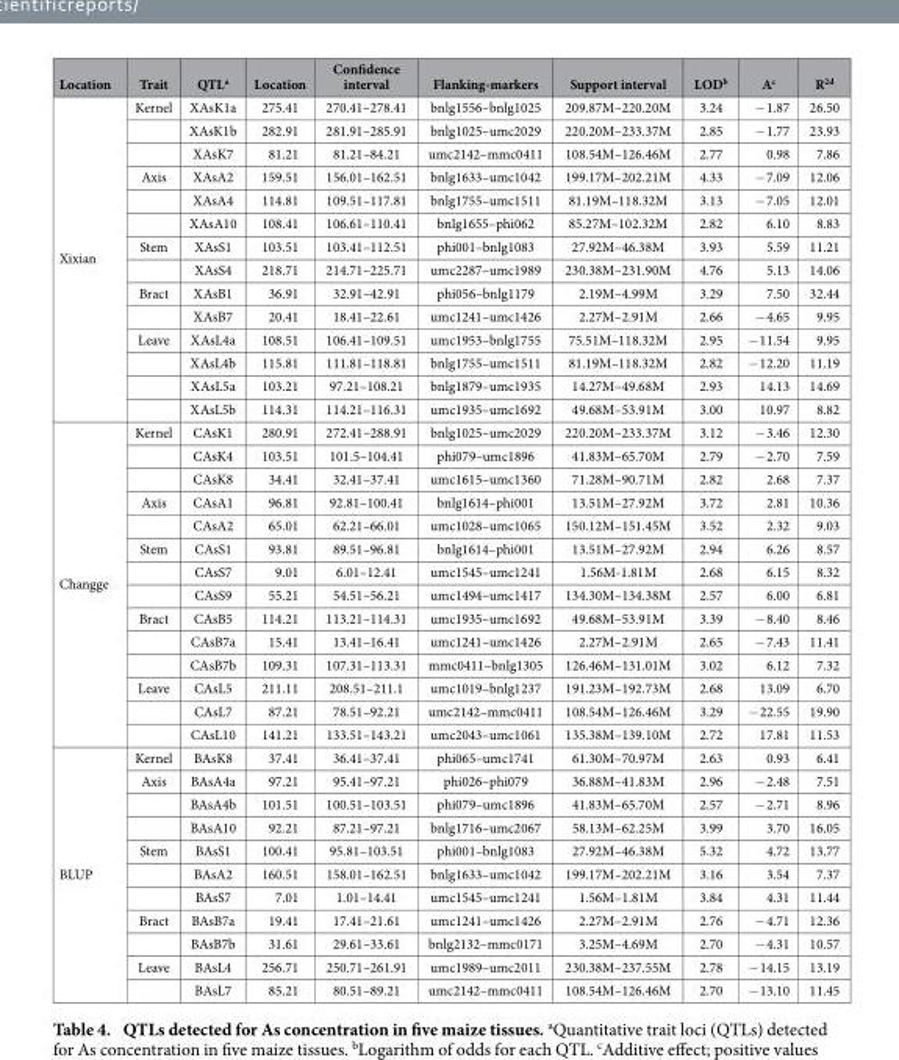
<table><thead><tr><td>Location</td><td>Trait</td><td>QTL<sup>a</sup></td><td>Location</td><td>Confidence interval</td><td>Flanking-markers</td><td>Support interval</td><td>LOD<sup>b</sup></td><td>A<sup>c</sup></td><td>R<sup>2d</sup></td></tr></thead><tbody><tr><td rowspan="14">Xixian</td><td>Kernel</td><td>XAsK1a</td><td>275.41</td><td>270.41–278.41</td><td>bnlg1556–bnlg1025</td><td>209.87M–220.20M</td><td>3.24</td><td>− 1.87</td><td>26.50</td></tr><tr><td></td><td>XAsK1b</td><td>282.91</td><td>281.91–285.91</td><td>bnlg1025–umc2029</td><td>220.20M–233.37M</td><td>2.85</td><td>− 1.77</td><td>23.93</td></tr><tr><td></td><td>XAsK7</td><td>81.21</td><td>81.21–84.21</td><td>umc2142–mmc0411</td><td>108.54M–126.46M</td><td>2.77</td><td>0.98</td><td>7.86</td></tr><tr><td>Axis</td><td>XAsA2</td><td>159.51</td><td>156.01–162.51</td><td>bnlg1633–umc1042</td><td>199.17M–202.21M</td><td>4.33</td><td>− 7.09</td><td>12.06</td></tr><tr><td></td><td>XAsA4</td><td>114.81</td><td>109.51–117.81</td><td>bnlg1755–umc1511</td><td>81.19M–118.32M</td><td>3.13</td><td>− 7.05</td><td>12.01</td></tr><tr><td></td><td>XAsA10</td><td>108.41</td><td>106.61–110.41</td><td>bnlg1655–phi062</td><td>85.27M–102.32M</td><td>2.82</td><td>6.10</td><td>8.83</td></tr><tr><td>Stem</td><td>XAsS1</td><td>103.51</td><td>103.41–112.51</td><td>phi001–bnlg1083</td><td>27.92M–46.38M</td><td>3.93</td><td>5.59</td><td>11.21</td></tr><tr><td></td><td>XAsS4</td><td>218.71</td><td>214.71–225.71</td><td>umc2287–umc1989</td><td>230.38M–231.90M</td><td>4.76</td><td>5.13</td><td>14.06</td></tr><tr><td>Bract</td><td>XAsB1</td><td>36.91</td><td>32.91–42.91</td><td>phi056–bnlg1179</td><td>2.19M–4.99M</td><td>3.29</td><td>7.50</td><td>32.44</td></tr><tr><td></td><td>XAsB7</td><td>20.41</td><td>18.41–22.61</td><td>umc1241–umc1426</td><td>2.27M–2.91M</td><td>2.66</td><td>− 4.65</td><td>9.95</td></tr><tr><td>Leave</td><td>XAsL4a</td><td>108.51</td><td>106.41–109.51</td><td>umc1953–bnlg1755</td><td>75.51M–118.32M</td><td>2.95</td><td>− 11.54</td><td>9.95</td></tr><tr><td></td><td>XAsL4b</td><td>115.81</td><td>111.81–118.81</td><td>bnlg1755–umc1511</td><td>81.19M–118.32M</td><td>2.82</td><td>− 12.20</td><td>11.19</td></tr><tr><td></td><td>XAsL5a</td><td>103.21</td><td>97.21–108.21</td><td>bnlg1879–umc1935</td><td>14.27M–49.68M</td><td>2.93</td><td>14.13</td><td>14.69</td></tr><tr><td></td><td>XAsL5b</td><td>114.31</td><td>114.21–116.31</td><td>umc1935–umc1692</td><td>49.68M–53.91M</td><td>3.00</td><td>10.97</td><td>8.82</td></tr><tr><td rowspan="14">Changge</td><td>Kernel</td><td>CAsK1</td><td>280.91</td><td>272.41–288.91</td><td>bnlg1025–umc2029</td><td>220.20M–233.37M</td><td>3.12</td><td>− 3.46</td><td>12.30</td></tr><tr><td></td><td>CAsK4</td><td>103.51</td><td>101.5–104.41</td><td>phi079–umc1896</td><td>41.83M–65.70M</td><td>2.79</td><td>− 2.70</td><td>7.59</td></tr><tr><td></td><td>CAsK8</td><td>34.41</td><td>32.41–37.41</td><td>umc1615–umc1360</td><td>71.28M–90.71M</td><td>2.82</td><td>2.68</td><td>7.37</td></tr><tr><td>Axis</td><td>CAsA1</td><td>96.81</td><td>92.81–100.41</td><td>bnlg1614–phi001</td><td>13.51M–27.92M</td><td>3.72</td><td>2.81</td><td>10.36</td></tr><tr><td></td><td>CAsA2</td><td>65.01</td><td>62.21–66.01</td><td>umc1028–umc1065</td><td>150.12M–151.45M</td><td>3.52</td><td>2.32</td><td>9.03</td></tr><tr><td>Stem</td><td>CAsS1</td><td>93.81</td><td>89.51–96.81</td><td>bnlg1614–phi001</td><td>13.51M–27.92M</td><td>2.94</td><td>6.26</td><td>8.57</td></tr><tr><td></td><td>CAsS7</td><td>9.01</td><td>6.01–12.41</td><td>umc1545–umc1241</td><td>1.56M-1.81M</td><td>2.68</td><td>6.15</td><td>8.32</td></tr><tr><td></td><td>CAsS9</td><td>55.21</td><td>54.51–56.21</td><td>umc1494–umc1417</td><td>134.30M–134.38M</td><td>2.57</td><td>6.00</td><td>6.81</td></tr><tr><td>Bract</td><td>CAsB5</td><td>114.21</td><td>113.21–114.31</td><td>umc1935–umc1692</td><td>49.68M–53.91M</td><td>3.39</td><td>− 8.40</td><td>8.46</td></tr><tr><td></td><td>CAsB7a</td><td>15.41</td><td>13.41–16.41</td><td>umc1241–umc1426</td><td>2.27M–2.91M</td><td>2.65</td><td>− 7.43</td><td>11.41</td></tr><tr><td></td><td>CAsB7b</td><td>109.31</td><td>107.31–113.31</td><td>mmc0411–bnlg1305</td><td>126.46M–131.01M</td><td>3.02</td><td>6.12</td><td>7.32</td></tr><tr><td>Leave</td><td>CAsL5</td><td>211.11</td><td>208.51–211.1</td><td>umc1019–bnlg1237</td><td>191.23M–192.73M</td><td>2.68</td><td>13.09</td><td>6.70</td></tr><tr><td></td><td>CAsL7</td><td>87.21</td><td>78.51–92.21</td><td>umc2142–mmc0411</td><td>108.54M–126.46M</td><td>3.29</td><td>− 22.55</td><td>19.90</td></tr><tr><td></td><td>CAsL10</td><td>141.21</td><td>133.51–143.21</td><td>umc2043–umc1061</td><td>135.38M–139.10M</td><td>2.72</td><td>17.81</td><td>11.53</td></tr><tr><td rowspan="11">BLUP</td><td>Kernel</td><td>BAsK8</td><td>37.41</td><td>36.41–37.41</td><td>phi065–umc1741</td><td>61.30M–70.97M</td><td>2.63</td><td>0.93</td><td>6.41</td></tr><tr><td>Axis</td><td>BAsA4a</td><td>97.21</td><td>95.41–97.21</td><td>phi026–phi079</td><td>36.88M–41.83M</td><td>2.96</td><td>− 2.48</td><td>7.51</td></tr><tr><td></td><td>BAsA4b</td><td>101.51</td><td>100.51–103.51</td><td>phi079–umc1896</td><td>41.83M–65.70M</td><td>2.57</td><td>− 2.71</td><td>8.96</td></tr><tr><td></td><td>BAsA10</td><td>92.21</td><td>87.21–97.21</td><td>bnlg1716–umc2067</td><td>58.13M–62.25M</td><td>3.99</td><td>3.70</td><td>16.05</td></tr><tr><td>Stem</td><td>BAsS1</td><td>100.41</td><td>95.81–103.51</td><td>phi001–bnlg1083</td><td>27.92M–46.38M</td><td>5.32</td><td>4.72</td><td>13.77</td></tr><tr><td></td><td>BAsA2</td><td>160.51</td><td>158.01–162.51</td><td>bnlg1633–umc1042</td><td>199.17M–202.21M</td><td>3.16</td><td>3.54</td><td>7.37</td></tr><tr><td></td><td>BAsS7</td><td>7.01</td><td>1.01–14.41</td><td>umc1545–umc1241</td><td>1.56M–1.81M</td><td>3.84</td><td>4.31</td><td>11.44</td></tr><tr><td>Bract</td><td>BAsB7a</td><td>19.41</td><td>17.41–21.61</td><td>umc1241–umc1426</td><td>2.27M–2.91M</td><td>2.76</td><td>− 4.71</td><td>12.36</td></tr><tr><td></td><td>BAsB7b</td><td>31.61</td><td>29.61–33.61</td><td>bnlg2132–mmc0171</td><td>3.25M–4.69M</td><td>2.70</td><td>− 4.31</td><td>10.57</td></tr><tr><td>Leave</td><td>BAsL4</td><td>256.71</td><td>250.71–261.91</td><td>umc1989–umc2011</td><td>230.38M–237.55M</td><td>2.78</td><td>− 14.15</td><td>13.19</td></tr><tr><td></td><td>BAsL7</td><td>85.21</td><td>80.51–89.21</td><td>umc2142–mmc0411</td><td>108.54M–126.46M</td><td>2.70</td><td>− 13.10</td><td>11.45</td></tr></tbody></table>